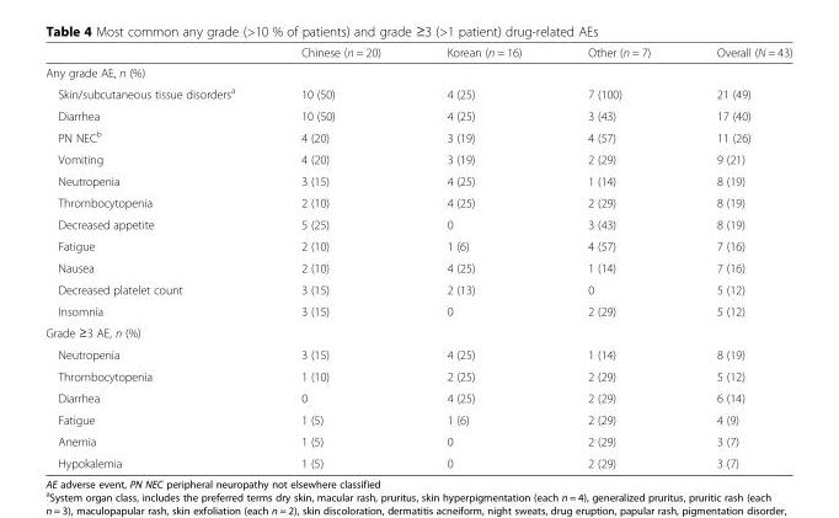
<table><thead><tr><td></td><td>Chinese (n = 20)</td><td>Korean (n = 16)</td><td>Other (n = 7)</td><td>Overall (N = 43)</td></tr></thead><tbody><tr><td colspan="5">Any grade AE, n (%)</td></tr><tr><td>Skin/subcutaneous tissue disorders<sup>a</sup></td><td>10 (50)</td><td>4 (25)</td><td>7 (100)</td><td>21 (49)</td></tr><tr><td>Diarrhea</td><td>10 (50)</td><td>4 (25)</td><td>3 (43)</td><td>17 (40)</td></tr><tr><td>PN NEC<sup>b</sup></td><td>4 (20)</td><td>3 (19)</td><td>4 (57)</td><td>11 (26)</td></tr><tr><td>Vomiting</td><td>4 (20)</td><td>3 (19)</td><td>2 (29)</td><td>9 (21)</td></tr><tr><td>Neutropenia</td><td>3 (15)</td><td>4 (25)</td><td>1 (14)</td><td>8 (19)</td></tr><tr><td>Thrombocytopenia</td><td>2 (10)</td><td>4 (25)</td><td>2 (29)</td><td>8 (19)</td></tr><tr><td>Decreased appetite</td><td>5 (25)</td><td>0</td><td>3 (43)</td><td>8 (19)</td></tr><tr><td>Fatigue</td><td>2 (10)</td><td>1 (6)</td><td>4 (57)</td><td>7 (16)</td></tr><tr><td>Nausea</td><td>2 (10)</td><td>4 (25)</td><td>1 (14)</td><td>7 (16)</td></tr><tr><td>Decreased platelet count</td><td>3 (15)</td><td>2 (13)</td><td>0</td><td>5 (12)</td></tr><tr><td>Insomnia</td><td>3 (15)</td><td>0</td><td>2 (29)</td><td>5 (12)</td></tr><tr><td colspan="5">Grade ≥3 AE, n (%)</td></tr><tr><td>Neutropenia</td><td>3 (15)</td><td>4 (25)</td><td>1 (14)</td><td>8 (19)</td></tr><tr><td>Thrombocytopenia</td><td>1 (10)</td><td>2 (25)</td><td>2 (29)</td><td>5 (12)</td></tr><tr><td>Diarrhea</td><td>0</td><td>4 (25)</td><td>2 (29)</td><td>6 (14)</td></tr><tr><td>Fatigue</td><td>1 (5)</td><td>1 (6)</td><td>2 (29)</td><td>4 (9)</td></tr><tr><td>Anemia</td><td>1 (5)</td><td>0</td><td>2 (29)</td><td>3 (7)</td></tr><tr><td>Hypokalemia</td><td>1 (5)</td><td>0</td><td>2 (29)</td><td>3 (7)</td></tr></tbody></table>